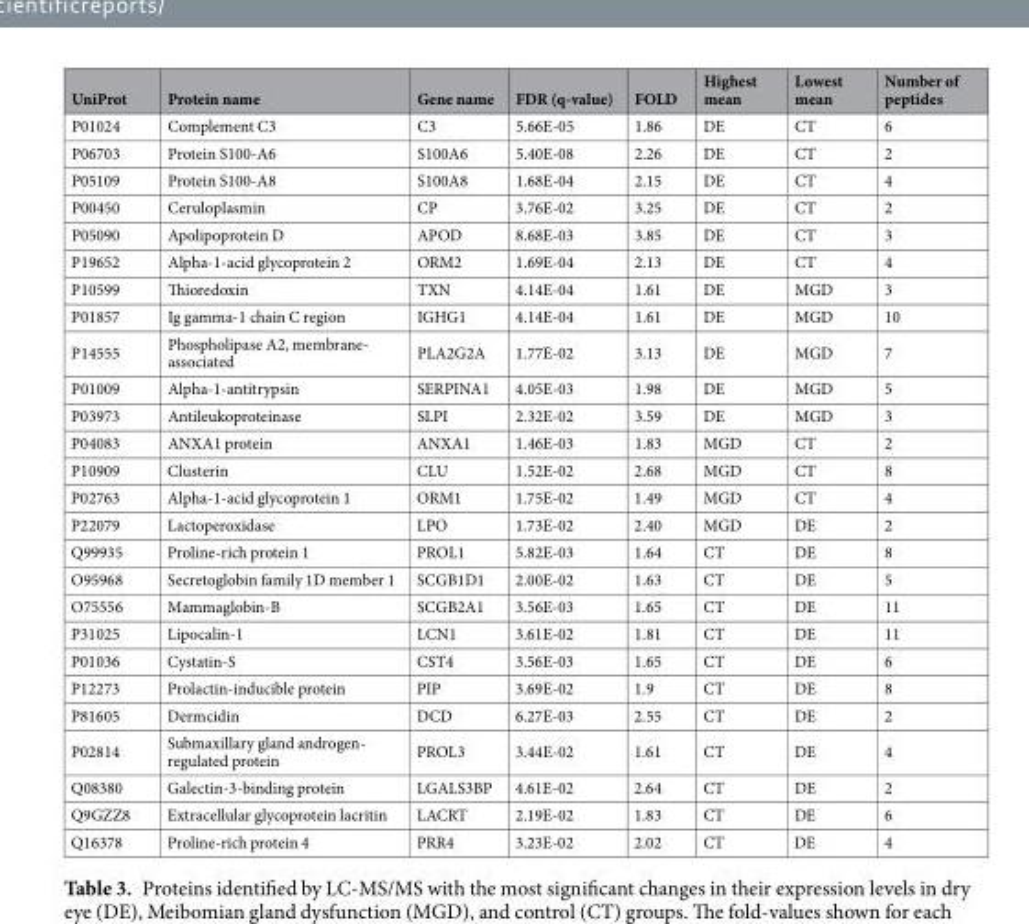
<table><thead><tr><td>UniProt</td><td>Protein name</td><td>Gene name</td><td>FDR (q-value)</td><td>FOLD</td><td>Highest mean</td><td>Lowest mean</td><td>Number of peptides</td></tr></thead><tbody><tr><td>P01024</td><td>Complement C3</td><td>C3</td><td>5.66E-05</td><td>1.86</td><td>DE</td><td>CT</td><td>6</td></tr><tr><td>P06703</td><td>Protein S100-A6</td><td>S100A6</td><td>5.40E-08</td><td>2.26</td><td>DE</td><td>CT</td><td>2</td></tr><tr><td>P05109</td><td>Protein S100-A8</td><td>S100A8</td><td>1.68E-04</td><td>2.15</td><td>DE</td><td>CT</td><td>4</td></tr><tr><td>P00450</td><td>Ceruloplasmin</td><td>CP</td><td>3.76E-02</td><td>3.25</td><td>DE</td><td>CT</td><td>2</td></tr><tr><td>P05090</td><td>Apolipoprotein D</td><td>APOD</td><td>8.68E-03</td><td>3.85</td><td>DE</td><td>CT</td><td>3</td></tr><tr><td>P19652</td><td>Alpha-1-acid glycoprotein 2</td><td>ORM2</td><td>1.69E-04</td><td>2.13</td><td>DE</td><td>CT</td><td>4</td></tr><tr><td>P10599</td><td>Thioredoxin</td><td>TXN</td><td>4.14E-04</td><td>1.61</td><td>DE</td><td>MGD</td><td>3</td></tr><tr><td>P01857</td><td>Ig gamma-1 chain C region</td><td>IGHG1</td><td>4.14E-04</td><td>1.61</td><td>DE</td><td>MGD</td><td>10</td></tr><tr><td>P14555</td><td>Phospholipase A2, membrane- associated</td><td>PLA2G2A</td><td>1.77E-02</td><td>3.13</td><td>DE</td><td>MGD</td><td>7</td></tr><tr><td>P01009</td><td>Alpha-1-antitrypsin</td><td>SERPINA1</td><td>4.05E-03</td><td>1.98</td><td>DE</td><td>MGD</td><td>5</td></tr><tr><td>P03973</td><td>Antileukoproteinase</td><td>SLPI</td><td>2.32E-02</td><td>3.59</td><td>DE</td><td>MGD</td><td>3</td></tr><tr><td>P04083</td><td>ANXA1 protein</td><td>ANXA1</td><td>1.46E-03</td><td>1.83</td><td>MGD</td><td>CT</td><td>2</td></tr><tr><td>P10909</td><td>Clusterin</td><td>CLU</td><td>1.52E-02</td><td>2.68</td><td>MGD</td><td>CT</td><td>8</td></tr><tr><td>P02763</td><td>Alpha-1-acid glycoprotein 1</td><td>ORM1</td><td>1.75E-02</td><td>1.49</td><td>MGD</td><td>CT</td><td>4</td></tr><tr><td>P22079</td><td>Lactoperoxidase</td><td>LPO</td><td>1.73E-02</td><td>2.40</td><td>MGD</td><td>DE</td><td>2</td></tr><tr><td>Q99935</td><td>Proline-rich protein 1</td><td>PROL1</td><td>5.82E-03</td><td>1.64</td><td>CT</td><td>DE</td><td>8</td></tr><tr><td>O95968</td><td>Secretoglobin family 1D member 1</td><td>SCGB1D1</td><td>2.00E-02</td><td>1.63</td><td>CT</td><td>DE</td><td>5</td></tr><tr><td>O75556</td><td>Mammaglobin-B</td><td>SCGB2A1</td><td>3.56E-03</td><td>1.65</td><td>CT</td><td>DE</td><td>11</td></tr><tr><td>P31025</td><td>Lipocalin-1</td><td>LCN1</td><td>3.61E-02</td><td>1.81</td><td>CT</td><td>DE</td><td>11</td></tr><tr><td>P01036</td><td>Cystatin-S</td><td>CST4</td><td>3.56E-03</td><td>1.65</td><td>CT</td><td>DE</td><td>6</td></tr><tr><td>P12273</td><td>Prolactin-inducible protein</td><td>PIP</td><td>3.69E-02</td><td>1.9</td><td>CT</td><td>DE</td><td>8</td></tr><tr><td>P81605</td><td>Dermcidin</td><td>DCD</td><td>6.27E-03</td><td>2.55</td><td>CT</td><td>DE</td><td>2</td></tr><tr><td>P02814</td><td>Submaxillary gland androgen- regulated protein</td><td>PROL3</td><td>3.44E-02</td><td>1.61</td><td>CT</td><td>DE</td><td>4</td></tr><tr><td>Q08380</td><td>Galectin-3-binding protein</td><td>LGALS3BP</td><td>4.61E-02</td><td>2.64</td><td>CT</td><td>DE</td><td>2</td></tr><tr><td>Q9GZZ8</td><td>Extracellular glycoprotein lacritin</td><td>LACRT</td><td>2.19E-02</td><td>1.83</td><td>CT</td><td>DE</td><td>6</td></tr><tr><td>Q16378</td><td>Proline-rich protein 4</td><td>PRR4</td><td>3.23E-02</td><td>2.02</td><td>CT</td><td>DE</td><td>4</td></tr></tbody></table>